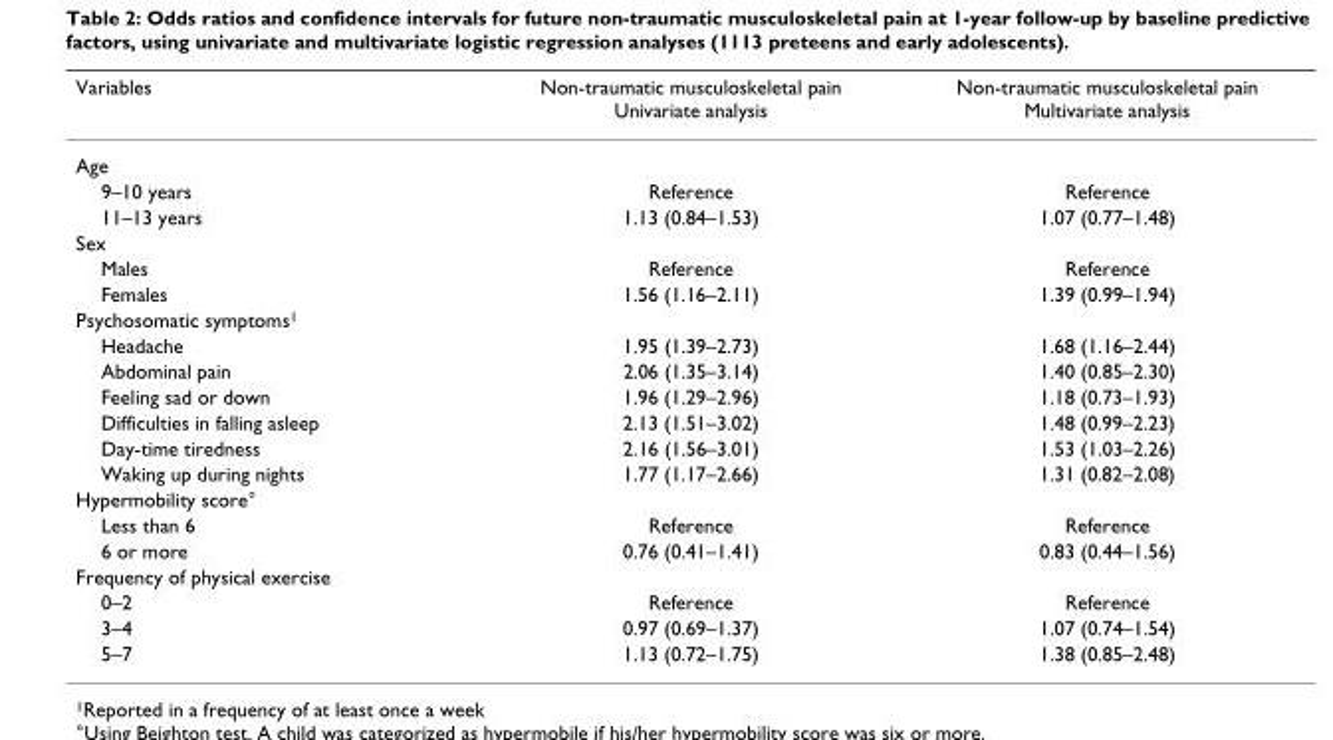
<table><thead><tr><td>Variables</td><td>Non-traumatic musculoskeletal pain Univariate analysis</td><td>Non-traumatic musculoskeletal pain Multivariate analysis</td></tr></thead><tbody><tr><td colspan="3">Age</td></tr><tr><td>9–10 years</td><td>Reference</td><td>Reference</td></tr><tr><td>11–13 years</td><td>1.13 (0.84–1.53)</td><td>1.07 (0.77–1.48)</td></tr><tr><td colspan="3">Sex</td></tr><tr><td>Males</td><td>Reference</td><td>Reference</td></tr><tr><td>Females</td><td>1.56 (1.16–2.11)</td><td>1.39 (0.99–1.94)</td></tr><tr><td colspan="3">Psychosomatic symptoms1</td></tr><tr><td>Headache</td><td>1.95 (1.39–2.73)</td><td>1.68 (1.16–2.44)</td></tr><tr><td>Abdominal pain</td><td>2.06 (1.35–3.14)</td><td>1.40 (0.85–2.30)</td></tr><tr><td>Feeling sad or down</td><td>1.96 (1.29–2.96)</td><td>1.18 (0.73–1.93)</td></tr><tr><td>Difficulties in falling asleep</td><td>2.13 (1.51–3.02)</td><td>1.48 (0.99–2.23)</td></tr><tr><td>Day-time tiredness</td><td>2.16 (1.56–3.01)</td><td>1.53 (1.03–2.26)</td></tr><tr><td>Waking up during nights</td><td>1.77 (1.17–2.66)</td><td>1.31 (0.82–2.08)</td></tr><tr><td colspan="3">Hypermobility score°</td></tr><tr><td>Less than 6</td><td>Reference</td><td>Reference</td></tr><tr><td>6 or more</td><td>0.76 (0.41–1.41)</td><td>0.83 (0.44–1.56)</td></tr><tr><td colspan="3">Frequency of physical exercise</td></tr><tr><td>0–2</td><td>Reference</td><td>Reference</td></tr><tr><td>3–4</td><td>0.97 (0.69–1.37)</td><td>1.07 (0.74–1.54)</td></tr><tr><td>5–7</td><td>1.13 (0.72–1.75)</td><td>1.38 (0.85–2.48)</td></tr></tbody></table>